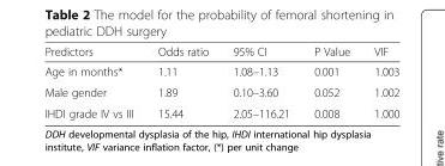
<table><thead><tr><td>Predictors</td><td>Odds ratio</td><td>95% CI</td><td>P Value</td><td>VIF</td></tr></thead><tbody><tr><td>Age in months*</td><td>1.11</td><td>1.08–1.13</td><td>0.001</td><td>1.003</td></tr><tr><td>Male gender</td><td>1.89</td><td>0.10–3.60</td><td>0.052</td><td>1.002</td></tr><tr><td>IHDI grade IV vs III</td><td>15.44</td><td>2.05–116.21</td><td>0.008</td><td>1.000</td></tr></tbody></table>